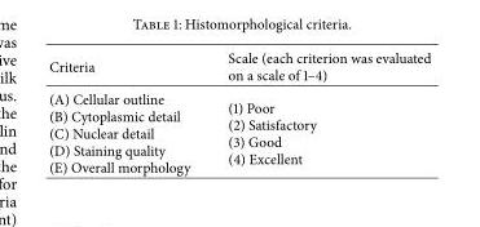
<table><thead><tr><td>Criteria</td><td>Scale (each criterion was evaluated on a scale of 1–4)</td></tr></thead><tbody><tr><td>(A) Cellular outline (B) Cytoplasmic detail (C) Nuclear detail (D) Staining quality (E) Overall morphology</td><td>(1) Poor (2) Satisfactory (3) Good (4) Excellent</td></tr></tbody></table>